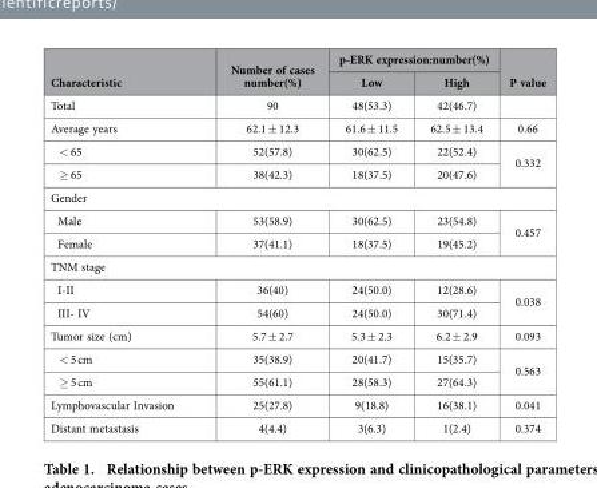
<table><thead><tr><td rowspan="2">Characteristic</td><td rowspan="2">Number of cases number(%)</td><td colspan="2">p-ERK expression:number(%)</td><td rowspan="2">P value</td></tr><tr><td>Low</td><td>High</td></tr></thead><tbody><tr><td>Total</td><td>90</td><td>48(53.3)</td><td>42(46.7)</td><td></td></tr><tr><td>Average years</td><td>62.1 ± 12.3</td><td>61.6 ± 11.5</td><td>62.5 ± 13.4</td><td>0.66</td></tr><tr><td>&lt; 65</td><td>52(57.8)</td><td>30(62.5)</td><td>22(52.4)</td><td rowspan="2">0.332</td></tr><tr><td>≥ 65</td><td>38(42.3)</td><td>18(37.5)</td><td>20(47.6)</td></tr><tr><td colspan="5">Gender</td></tr><tr><td>Male</td><td>53(58.9)</td><td>30(62.5)</td><td>23(54.8)</td><td rowspan="2">0.457</td></tr><tr><td>Female</td><td>37(41.1)</td><td>18(37.5)</td><td>19(45.2)</td></tr><tr><td colspan="5">TNM stage</td></tr><tr><td>I-II</td><td>36(40)</td><td>24(50.0)</td><td>12(28.6)</td><td rowspan="2">0.038</td></tr><tr><td>III- IV</td><td>54(60)</td><td>24(50.0)</td><td>30(71.4)</td></tr><tr><td>Tumor size (cm)</td><td>5.7 ± 2.7</td><td>5.3 ± 2.3</td><td>6.2 ± 2.9</td><td>0.093</td></tr><tr><td>&lt; 5 cm</td><td>35(38.9)</td><td>20(41.7)</td><td>15(35.7)</td><td rowspan="2">0.563</td></tr><tr><td>≥ 5 cm</td><td>55(61.1)</td><td>28(58.3)</td><td>27(64.3)</td></tr><tr><td>Lymphovascular Invasion</td><td>25(27.8)</td><td>9(18.8)</td><td>16(38.1)</td><td>0.041</td></tr><tr><td>Distant metastasis</td><td>4(4.4)</td><td>3(6.3)</td><td>1(2.4)</td><td>0.374</td></tr></tbody></table>